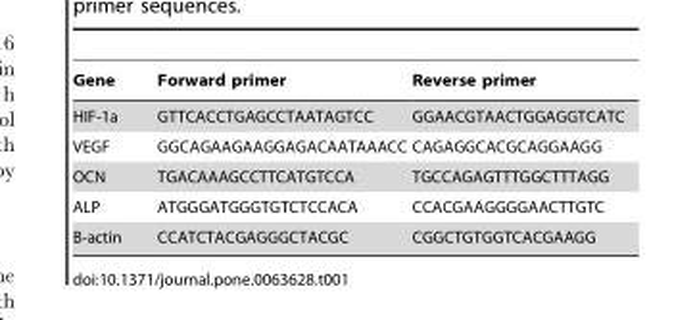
<table><thead><tr><td>Gene</td><td>Forward primer</td><td>Reverse primer</td></tr></thead><tbody><tr><td>HIF-1a</td><td>GTTCACCTGAGCCTAATAGTCC</td><td>GGAACGTAACTGGAGGTCATC</td></tr><tr><td>VEGF</td><td>GGCAGAAGAAGGAGACAATAAACC</td><td>CAGAGGCACGCAGGAAGG</td></tr><tr><td>OCN</td><td>TGACAAAGCCTTCATGTCCA</td><td>TGCCAGAGTTTGGCTTTAGG</td></tr><tr><td>ALP</td><td>ATGGGATGGGTGTCTCCACA</td><td>CCACGAAGGGGAACTTGTC</td></tr><tr><td>B-actin</td><td>CCATCTACGAGGGCTACGC</td><td>CGGCTGTGGTCACGAAGG</td></tr></tbody></table>